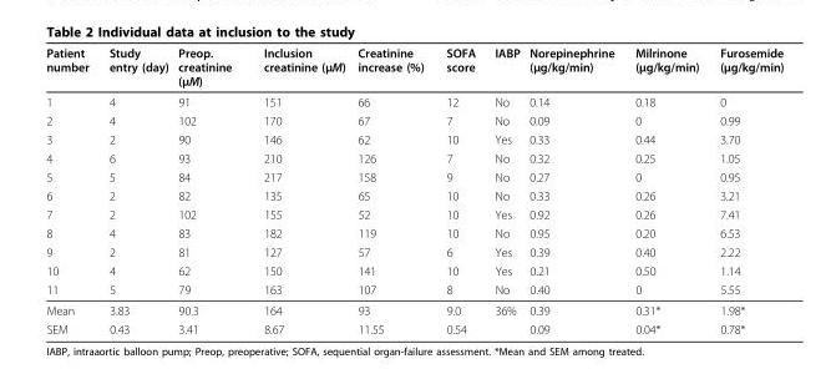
<table><thead><tr><td>Patient number</td><td>Study entry (day)</td><td>Preop. creatinine (µM)</td><td>Inclusion creatinine (µM)</td><td>Creatinine increase (%)</td><td>SOFA score</td><td>IABP</td><td>Norepinephrine (µg/kg/min)</td><td>Milrinone (µg/kg/min)</td><td>Furosemide (µg/kg/min)</td></tr></thead><tbody><tr><td>1</td><td>4</td><td>91</td><td>151</td><td>66</td><td>12</td><td>No</td><td>0.14</td><td>0.18</td><td>0</td></tr><tr><td>2</td><td>4</td><td>102</td><td>170</td><td>67</td><td>7</td><td>No</td><td>0.09</td><td>0</td><td>0.99</td></tr><tr><td>3</td><td>2</td><td>90</td><td>146</td><td>62</td><td>10</td><td>Yes</td><td>0.33</td><td>0.44</td><td>3.70</td></tr><tr><td>4</td><td>6</td><td>93</td><td>210</td><td>126</td><td>7</td><td>No</td><td>0.32</td><td>0.25</td><td>1.05</td></tr><tr><td>5</td><td>5</td><td>84</td><td>217</td><td>158</td><td>9</td><td>No</td><td>0.27</td><td>0</td><td>0.95</td></tr><tr><td>6</td><td>2</td><td>82</td><td>135</td><td>65</td><td>10</td><td>No</td><td>0.33</td><td>0.26</td><td>3.21</td></tr><tr><td>7</td><td>2</td><td>102</td><td>155</td><td>52</td><td>10</td><td>Yes</td><td>0.92</td><td>0.26</td><td>7.41</td></tr><tr><td>8</td><td>4</td><td>83</td><td>182</td><td>119</td><td>10</td><td>No</td><td>0.95</td><td>0.20</td><td>6.53</td></tr><tr><td>9</td><td>2</td><td>81</td><td>127</td><td>57</td><td>6</td><td>Yes</td><td>0.39</td><td>0.40</td><td>2.22</td></tr><tr><td>10</td><td>4</td><td>62</td><td>150</td><td>141</td><td>10</td><td>Yes</td><td>0.21</td><td>0.50</td><td>1.14</td></tr><tr><td>11</td><td>5</td><td>79</td><td>163</td><td>107</td><td>8</td><td>No</td><td>0.40</td><td>0</td><td>5.55</td></tr><tr><td>Mean</td><td>3.83</td><td>90.3</td><td>164</td><td>93</td><td>9.0</td><td>36%</td><td>0.39</td><td>0.31*</td><td>1.98*</td></tr><tr><td>SEM</td><td>0.43</td><td>3.41</td><td>8.67</td><td>11.55</td><td>0.54</td><td></td><td>0.09</td><td>0.04*</td><td>0.78*</td></tr></tbody></table>